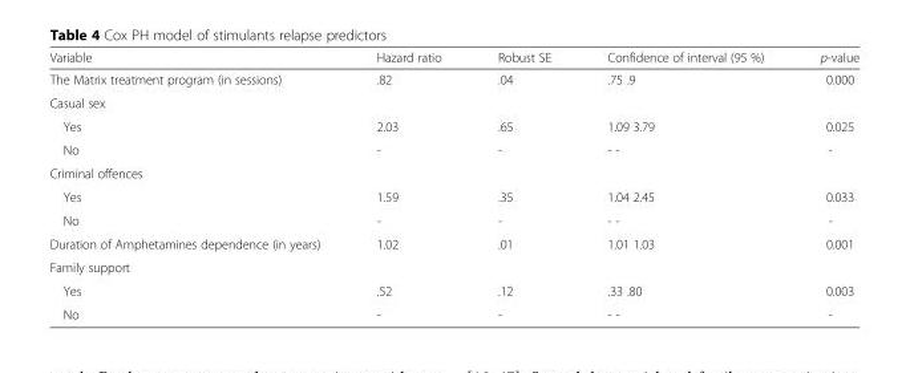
<table><thead><tr><td>Variable</td><td>Hazard ratio</td><td>Robust SE</td><td>Confidence of interval (95 %)</td><td>p-value</td></tr></thead><tbody><tr><td>The Matrix treatment program (in sessions)</td><td>.82</td><td>.04</td><td>.75 .9</td><td>0.000</td></tr><tr><td colspan="5">Casual sex</td></tr><tr><td>Yes</td><td>2.03</td><td>.65</td><td>1.09 3.79</td><td>0.025</td></tr><tr><td>No</td><td>-</td><td>-</td><td>- -</td><td>-</td></tr><tr><td colspan="5">Criminal offences</td></tr><tr><td>Yes</td><td>1.59</td><td>.35</td><td>1.04 2.45</td><td>0.033</td></tr><tr><td>No</td><td>-</td><td>-</td><td>- -</td><td>-</td></tr><tr><td>Duration of Amphetamines dependence (in years)</td><td>1.02</td><td>.01</td><td>1.01 1.03</td><td>0.001</td></tr><tr><td colspan="5">Family support</td></tr><tr><td>Yes</td><td>.52</td><td>.12</td><td>.33 .80</td><td>0.003</td></tr><tr><td>No</td><td>-</td><td>-</td><td>- -</td><td>-</td></tr></tbody></table>